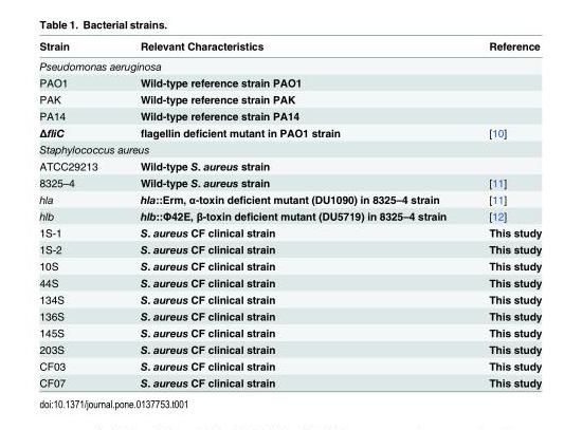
<table><thead><tr><td>Strain</td><td>Relevant Characteristics</td><td>Reference</td></tr></thead><tbody><tr><td colspan="3">Pseudomonas aeruginosa</td></tr><tr><td>PAO1</td><td>Wild-type reference strain PAO1</td><td></td></tr><tr><td>PAK</td><td>Wild-type reference strain PAK</td><td></td></tr><tr><td>PA14</td><td>Wild-type reference strain PA14</td><td></td></tr><tr><td>ΔfliC</td><td>flagellin deficient mutant in PAO1 strain</td><td>[10]</td></tr><tr><td colspan="3">Staphylococcus aureus</td></tr><tr><td>ATCC29213</td><td>Wild-type S. aureus strain</td><td></td></tr><tr><td>8325–4</td><td>Wild-type S. aureus strain</td><td>[11]</td></tr><tr><td>hla</td><td>hla::Erm, α-toxin deficient mutant (DU1090) in 8325–4 strain</td><td>[11]</td></tr><tr><td>hlb</td><td>hlb::Φ42E, β-toxin deficient mutant (DU5719) in 8325–4 strain</td><td>[12]</td></tr><tr><td>1S-1</td><td>S. aureus CF clinical strain</td><td>This study</td></tr><tr><td>1S-2</td><td>S. aureus CF clinical strain</td><td>This study</td></tr><tr><td>10S</td><td>S. aureus CF clinical strain</td><td>This study</td></tr><tr><td>44S</td><td>S. aureus CF clinical strain</td><td>This study</td></tr><tr><td>134S</td><td>S. aureus CF clinical strain</td><td>This study</td></tr><tr><td>136S</td><td>S. aureus CF clinical strain</td><td>This study</td></tr><tr><td>145S</td><td>S. aureus CF clinical strain</td><td>This study</td></tr><tr><td>203S</td><td>S. aureus CF clinical strain</td><td>This study</td></tr><tr><td>CF03</td><td>S. aureus CF clinical strain</td><td>This study</td></tr><tr><td>CF07</td><td>S. aureus CF clinical strain</td><td>This study</td></tr></tbody></table>